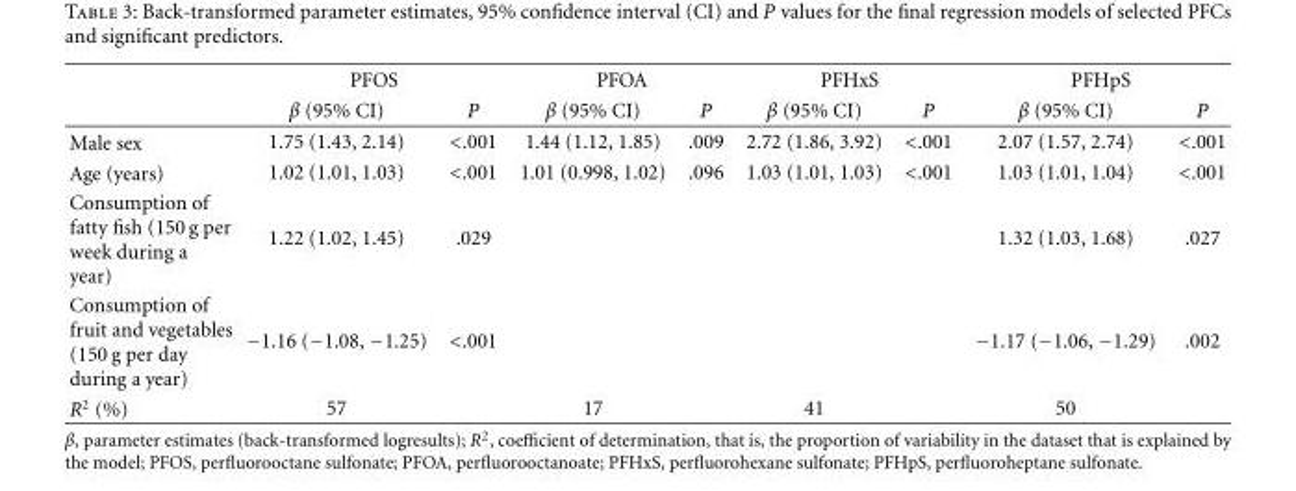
<table><thead><tr><td rowspan="2"></td><td colspan="2">PFOS</td><td colspan="2">PFOA</td><td colspan="2">PFHxS</td><td colspan="2">PFHpS</td></tr><tr><td>β (95% CI)</td><td>P</td><td>β (95% CI)</td><td>P</td><td>β (95% CI)</td><td>P</td><td>β (95% CI)</td><td>P</td></tr></thead><tbody><tr><td>Male sex</td><td>1.75 (1.43, 2.14)</td><td>&lt;.001</td><td>1.44 (1.12, 1.85)</td><td>.009</td><td>2.72 (1.86, 3.92)</td><td>&lt;.001</td><td>2.07 (1.57, 2.74)</td><td>&lt;.001</td></tr><tr><td>Age (years)</td><td>1.02 (1.01, 1.03)</td><td>&lt;.001</td><td>1.01 (0.998, 1.02)</td><td>.096</td><td>1.03 (1.01, 1.03)</td><td>&lt;.001</td><td>1.03 (1.01, 1.04)</td><td>&lt;.001</td></tr><tr><td>Consumption of fatty fish (150 g per week during a year)</td><td>1.22 (1.02, 1.45)</td><td>.029</td><td></td><td></td><td></td><td></td><td>1.32 (1.03, 1.68)</td><td>.027</td></tr><tr><td>Consumption of fruit and vegetables (150 g per day during a year)</td><td>−1.16 (−1.08, −1.25)</td><td>&lt;.001</td><td></td><td></td><td></td><td></td><td>−1.17 (−1.06, −1.29)</td><td>.002</td></tr><tr><td>R<sup>2</sup> (%)</td><td>57</td><td></td><td>17</td><td></td><td>41</td><td></td><td>50</td><td></td></tr></tbody></table>